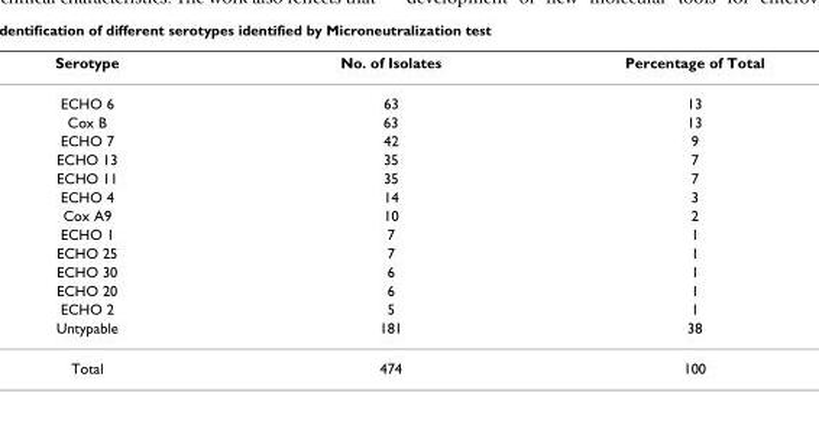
<table><thead><tr><td>Serotype</td><td>No. of Isolates</td><td>Percentage of Total</td></tr></thead><tbody><tr><td>ECHO 6</td><td>63</td><td>13</td></tr><tr><td>Cox B</td><td>63</td><td>13</td></tr><tr><td>ECHO 7</td><td>42</td><td>9</td></tr><tr><td>ECHO 13</td><td>35</td><td>7</td></tr><tr><td>ECHO 11</td><td>35</td><td>7</td></tr><tr><td>ECHO 4</td><td>14</td><td>3</td></tr><tr><td>Cox A9</td><td>10</td><td>2</td></tr><tr><td>ECHO 1</td><td>7</td><td>1</td></tr><tr><td>ECHO 25</td><td>7</td><td>1</td></tr><tr><td>ECHO 30</td><td>6</td><td>1</td></tr><tr><td>ECHO 20</td><td>6</td><td>1</td></tr><tr><td>ECHO 2</td><td>5</td><td>1</td></tr><tr><td>Untypable</td><td>181</td><td>38</td></tr><tr><td>Total</td><td>474</td><td>100</td></tr></tbody></table>